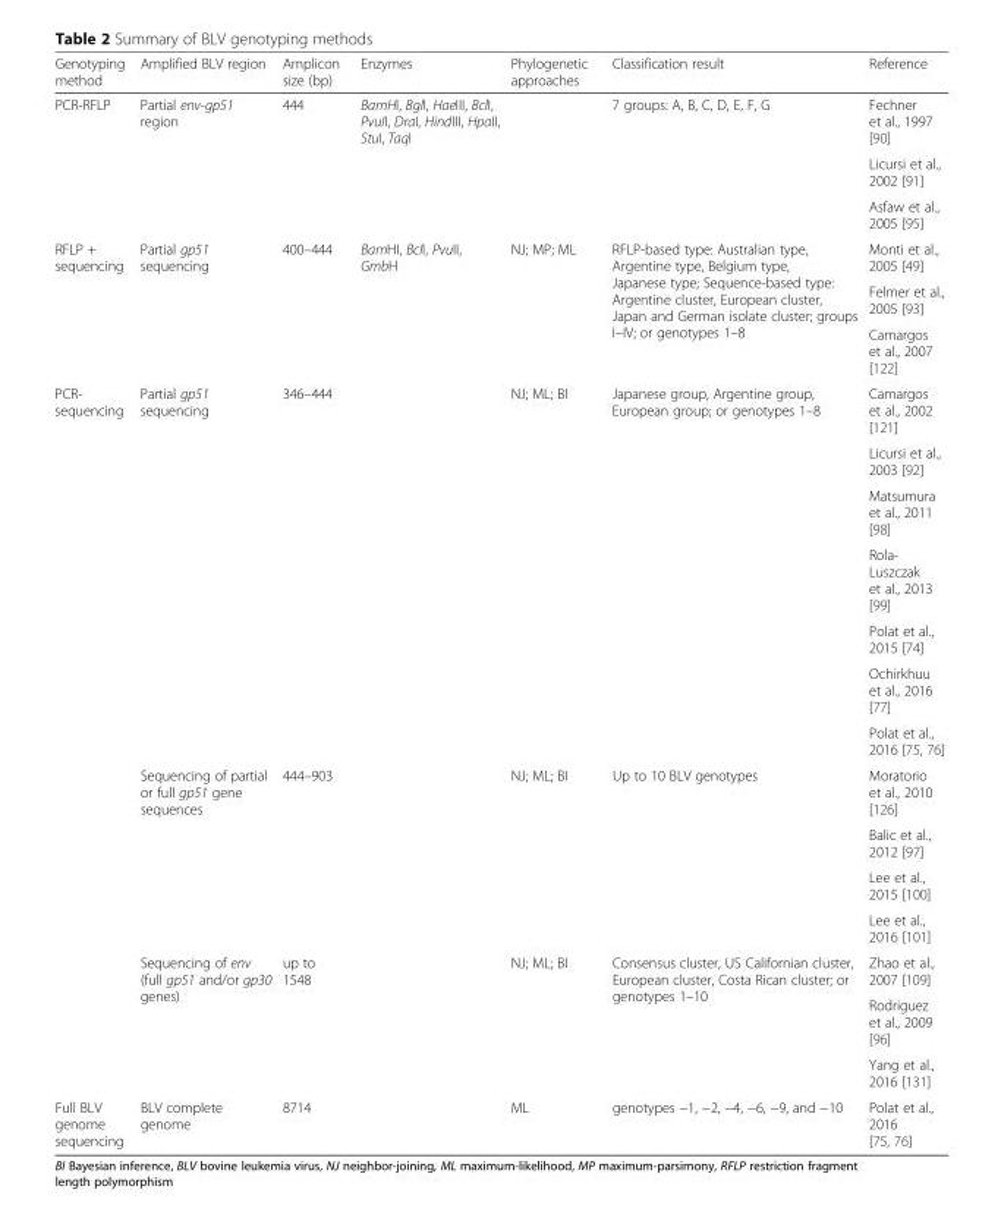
<table><thead><tr><td>Genotyping method</td><td>Amplified BLV region</td><td>Amplicon size (bp)</td><td>Enzymes</td><td>Phylogenetic approaches</td><td>Classification result</td><td>Reference</td></tr></thead><tbody><tr><td rowspan="3">PCR-RFLP</td><td rowspan="3">Partial env-gp51 region</td><td rowspan="3">444</td><td rowspan="3">BamHI, BglI, HaeIII, BclI, PvuII, DraI, HindIII, HpaII, StuI, TaqI</td><td rowspan="3"></td><td rowspan="3">7 groups: A, B, C, D, E, F, G</td><td>Fechner et al., 1997 [90]</td></tr><tr><td>Licursi et al., 2002 [91]</td></tr><tr><td>Asfaw et al., 2005 [95]</td></tr><tr><td rowspan="3">RFLP + sequencing</td><td rowspan="3">Partial gp51 sequencing</td><td rowspan="3">400–444</td><td rowspan="3">BamHI, BclI, PvuII, GmbH</td><td rowspan="3">NJ; MP; ML</td><td rowspan="3">RFLP-based type: Australian type, Argentine type, Belgium type, Japanese type; Sequence-based type: Argentine cluster, European cluster, Japan and German isolate cluster; groups I–IV; or genotypes 1–8</td><td>Monti et al., 2005 [49]</td></tr><tr><td>Felmer et al., 2005 [93]</td></tr><tr><td>Camargos et al., 2007 [122]</td></tr><tr><td rowspan="14">PCR- sequencing</td><td rowspan="7">Partial gp51 sequencing</td><td rowspan="7">346–444</td><td rowspan="7"></td><td rowspan="7">NJ; ML; BI</td><td rowspan="7">Japanese group, Argentine group, European group; or genotypes 1–8</td><td>Camargos et al., 2002 [121]</td></tr><tr><td>Licursi et al., 2003 [92]</td></tr><tr><td>Matsumura et al., 2011 [98]</td></tr><tr><td>Rola- Luszczak et al., 2013 [99]</td></tr><tr><td>Polat et al., 2015 [74]</td></tr><tr><td>Ochirkhuu et al., 2016 [77]</td></tr><tr><td>Polat et al., 2016 [75, 76]</td></tr><tr><td rowspan="4">Sequencing of partial or full gp51 gene sequences</td><td rowspan="4">444–903</td><td rowspan="4"></td><td rowspan="4">NJ; ML; BI</td><td rowspan="4">Up to 10 BLV genotypes</td><td>Moratorio et al., 2010 [126]</td></tr><tr><td>Balic et al., 2012 [97]</td></tr><tr><td>Lee et al., 2015 [100]</td></tr><tr><td>Lee et al., 2016 [101]</td></tr><tr><td rowspan="3">Sequencing of env (full gp51 and/or gp30 genes)</td><td rowspan="3">up to 1548</td><td rowspan="3"></td><td rowspan="3">NJ; ML; BI</td><td rowspan="3">Consensus cluster, US Californian cluster, European cluster, Costa Rican cluster; or genotypes 1–10</td><td>Zhao et al., 2007 [109]</td></tr><tr><td>Rodriguez et al., 2009 [96]</td></tr><tr><td>Yang et al., 2016 [131]</td></tr><tr><td>Full BLV genome sequencing</td><td>BLV complete genome</td><td>8714</td><td></td><td>ML</td><td>genotypes −1, −2, −4, −6, −9, and −10</td><td>Polat et al., 2016 [75, 76]</td></tr></tbody></table>